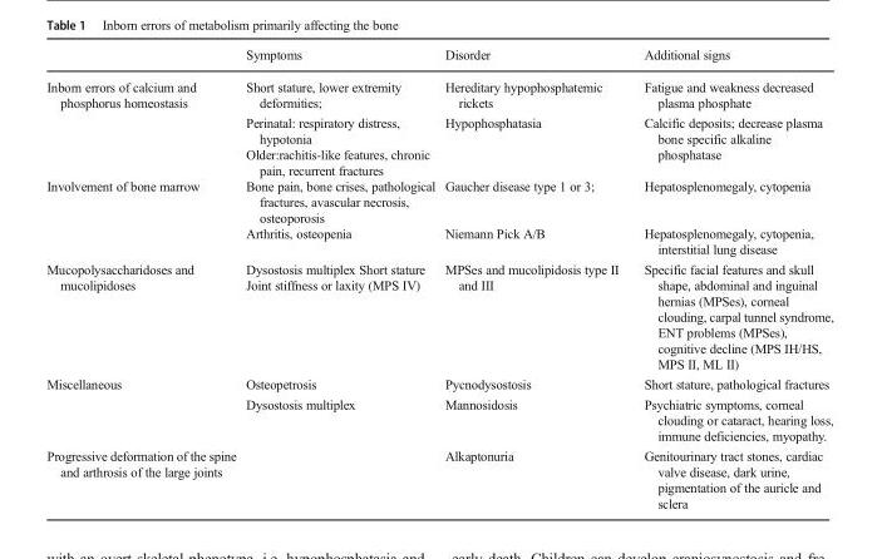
<table><thead><tr><td></td><td>Symptoms</td><td>Disorder</td><td>Additional signs</td></tr></thead><tbody><tr><td rowspan="2">Inborn errors of calcium and phosphorus homeostasis</td><td>Short stature, lower extremity deformities;</td><td>Hereditary hypophosphatemic rickets</td><td>Fatigue and weakness decreased plasma phosphate</td></tr><tr><td>Perinatal: respiratory distress, hypotonia Older:rachitis-like features, chronic pain, recurrent fractures</td><td>Hypophosphatasia</td><td>Calcific deposits; decrease plasma bone specific alkaline phosphatase</td></tr><tr><td rowspan="2">Involvement of bone marrow</td><td>Bone pain, bone crises, pathological fractures, avascular necrosis, osteoporosis</td><td>Gaucher disease type 1 or 3;</td><td>Hepatosplenomegaly, cytopenia</td></tr><tr><td>Arthritis, osteopenia</td><td>Niemann Pick A/B</td><td>Hepatosplenomegaly, cytopenia, interstitial lung disease</td></tr><tr><td>Mucopolysaccharidoses and mucolipidoses</td><td>Dysostosis multiplex Short stature Joint stiffness or laxity (MPS IV)</td><td>MPSes and mucolipidosis type II and III</td><td>Specific facial features and skull shape, abdominal and inguinal hernias (MPSes), corneal clouding, carpal tunnel syndrome, ENT problems (MPSes), cognitive decline (MPS IH/HS, MPS II, ML II)</td></tr><tr><td rowspan="2">Miscellaneous</td><td>Osteopetrosis</td><td>Pycnodysostosis</td><td>Short stature, pathological fractures</td></tr><tr><td>Dysostosis multiplex</td><td>Mannosidosis</td><td>Psychiatric symptoms, corneal clouding or cataract, hearing loss, immune deficiencies, myopathy.</td></tr><tr><td>Progressive deformation of the spine and arthrosis of the large joints</td><td></td><td>Alkaptonuria</td><td>Genitourinary tract stones, cardiac valve disease, dark urine, pigmentation of the auricle and sclera</td></tr></tbody></table>